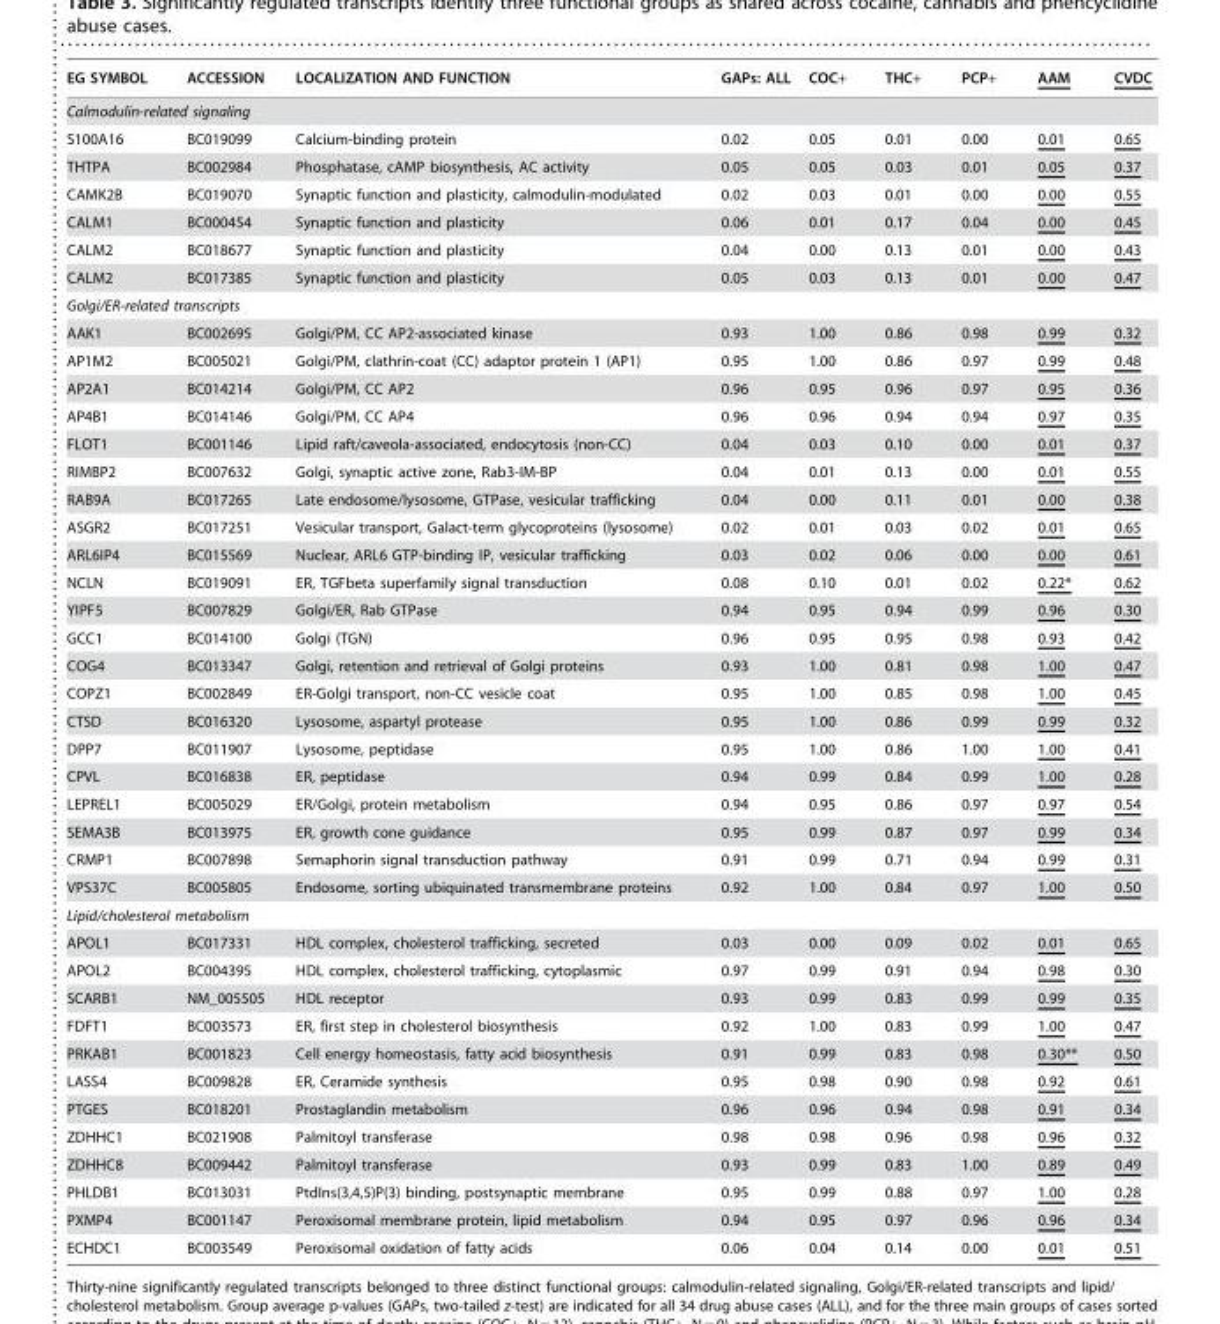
<table><thead><tr><td>EG SYMBOL</td><td>ACCESSION</td><td>LOCALIZATION AND FUNCTION</td><td>GAPs: ALL</td><td>COC+</td><td>THC+</td><td>PCP+</td><td>AAM</td><td>CVDC</td></tr></thead><tbody><tr><td colspan="9">Calmodulin-related signaling</td></tr><tr><td>S100A16</td><td>BC019099</td><td>Calcium-binding protein</td><td>0.02</td><td>0.05</td><td>0.01</td><td>0.00</td><td>0.01</td><td>0.65</td></tr><tr><td>THTPA</td><td>BC002984</td><td>Phosphatase, cAMP biosynthesis, AC activity</td><td>0.05</td><td>0.05</td><td>0.03</td><td>0.01</td><td>0.05</td><td>0.37</td></tr><tr><td>CAMK2B</td><td>BC019070</td><td>Synaptic function and plasticity, calmodulin-modulated</td><td>0.02</td><td>0.03</td><td>0.01</td><td>0.00</td><td>0.00</td><td>0.55</td></tr><tr><td>CALM1</td><td>BC000454</td><td>Synaptic function and plasticity</td><td>0.06</td><td>0.01</td><td>0.17</td><td>0.04</td><td>0.00</td><td>0.45</td></tr><tr><td>CALM2</td><td>BC018677</td><td>Synaptic function and plasticity</td><td>0.04</td><td>0.00</td><td>0.13</td><td>0.01</td><td>0.00</td><td>0.43</td></tr><tr><td>CALM2</td><td>BC017385</td><td>Synaptic function and plasticity</td><td>0.05</td><td>0.03</td><td>0.13</td><td>0.01</td><td>0.00</td><td>0.47</td></tr><tr><td colspan="9">Golgi/ER-related transcripts</td></tr><tr><td>AAK1</td><td>BC002695</td><td>Golgi/PM, CC AP2-associated kinase</td><td>0.93</td><td>1.00</td><td>0.86</td><td>0.98</td><td>0.99</td><td>0.32</td></tr><tr><td>AP1M2</td><td>BC005021</td><td>Golgi/PM, clathrin-coat (CC) adaptor protein 1 (AP1)</td><td>0.95</td><td>1.00</td><td>0.86</td><td>0.97</td><td>0.99</td><td>0.48</td></tr><tr><td>AP2A1</td><td>BC014214</td><td>Golgi/PM, CC AP2</td><td>0.96</td><td>0.95</td><td>0.96</td><td>0.97</td><td>0.95</td><td>0.36</td></tr><tr><td>AP4B1</td><td>BC014146</td><td>Golgi/PM, CC AP4</td><td>0.96</td><td>0.96</td><td>0.94</td><td>0.94</td><td>0.97</td><td>0.35</td></tr><tr><td>FLOT1</td><td>BC001146</td><td>Lipid raft/caveola-associated, endocytosis (non-CC)</td><td>0.04</td><td>0.03</td><td>0.10</td><td>0.00</td><td>0.01</td><td>0.37</td></tr><tr><td>RIMBP2</td><td>BC007632</td><td>Golgi, synaptic active zone, Rab3-IM-BP</td><td>0.04</td><td>0.01</td><td>0.13</td><td>0.00</td><td>0.01</td><td>0.55</td></tr><tr><td>RAB9A</td><td>BC017265</td><td>Late endosome/lysosome, GTPase, vesicular trafficking</td><td>0.04</td><td>0.00</td><td>0.11</td><td>0.01</td><td>0.00</td><td>0.38</td></tr><tr><td>ASGR2</td><td>BC017251</td><td>Vesicular transport, Galact-term glycoproteins (lysosome)</td><td>0.02</td><td>0.01</td><td>0.03</td><td>0.02</td><td>0.01</td><td>0.65</td></tr><tr><td>ARL6IP4</td><td>BC015569</td><td>Nuclear, ARL6 GTP-binding IP, vesicular trafficking</td><td>0.03</td><td>0.02</td><td>0.06</td><td>0.00</td><td>0.00</td><td>0.61</td></tr><tr><td>NCLN</td><td>BC019091</td><td>ER, TGFbeta superfamily signal transduction</td><td>0.08</td><td>0.10</td><td>0.01</td><td>0.02</td><td>0.22*</td><td>0.62</td></tr><tr><td>YIPF5</td><td>BC007829</td><td>Golgi/ER, Rab GTPase</td><td>0.94</td><td>0.95</td><td>0.94</td><td>0.99</td><td>0.96</td><td>0.30</td></tr><tr><td>GCC1</td><td>BC014100</td><td>Golgi (TGN)</td><td>0.96</td><td>0.95</td><td>0.95</td><td>0.98</td><td>0.93</td><td>0.42</td></tr><tr><td>COG4</td><td>BC013347</td><td>Golgi, retention and retrieval of Golgi proteins</td><td>0.93</td><td>1.00</td><td>0.81</td><td>0.98</td><td>1.00</td><td>0.47</td></tr><tr><td>COPZ1</td><td>BC002849</td><td>ER-Golgi transport, non-CC vesicle coat</td><td>0.95</td><td>1.00</td><td>0.85</td><td>0.98</td><td>1.00</td><td>0.45</td></tr><tr><td>CTSD</td><td>BC016320</td><td>Lysosome, aspartyl protease</td><td>0.95</td><td>1.00</td><td>0.86</td><td>0.99</td><td>0.99</td><td>0.32</td></tr><tr><td>DPP7</td><td>BC011907</td><td>Lysosome, peptidase</td><td>0.95</td><td>1.00</td><td>0.86</td><td>1.00</td><td>1.00</td><td>0.41</td></tr><tr><td>CPVL</td><td>BC016838</td><td>ER, peptidase</td><td>0.94</td><td>0.99</td><td>0.84</td><td>0.99</td><td>1.00</td><td>0.28</td></tr><tr><td>LEPREL1</td><td>BC005029</td><td>ER/Golgi, protein metabolism</td><td>0.94</td><td>0.95</td><td>0.86</td><td>0.97</td><td>0.97</td><td>0.54</td></tr><tr><td>SEMA3B</td><td>BC013975</td><td>ER, growth cone guidance</td><td>0.95</td><td>0.99</td><td>0.87</td><td>0.97</td><td>0.99</td><td>0.34</td></tr><tr><td>CRMP1</td><td>BC007898</td><td>Semaphorin signal transduction pathway</td><td>0.91</td><td>0.99</td><td>0.71</td><td>0.94</td><td>0.99</td><td>0.31</td></tr><tr><td>VPS37C</td><td>BC005805</td><td>Endosome, sorting ubiquinated transmembrane proteins</td><td>0.92</td><td>1.00</td><td>0.84</td><td>0.97</td><td>1.00</td><td>0.50</td></tr><tr><td colspan="9">Lipid/cholesterol metabolism</td></tr><tr><td>APOL1</td><td>BC017331</td><td>HDL complex, cholesterol trafficking, secreted</td><td>0.03</td><td>0.00</td><td>0.09</td><td>0.02</td><td>0.01</td><td>0.65</td></tr><tr><td>APOL2</td><td>BC004395</td><td>HDL complex, cholesterol trafficking, cytoplasmic</td><td>0.97</td><td>0.99</td><td>0.91</td><td>0.94</td><td>0.98</td><td>0.30</td></tr><tr><td>SCARB1</td><td>NM_005505</td><td>HDL receptor</td><td>0.93</td><td>0.99</td><td>0.83</td><td>0.99</td><td>0.99</td><td>0.35</td></tr><tr><td>FDFT1</td><td>BC003573</td><td>ER, first step in cholesterol biosynthesis</td><td>0.92</td><td>1.00</td><td>0.83</td><td>0.99</td><td>1.00</td><td>0.47</td></tr><tr><td>PRKAB1</td><td>BC001823</td><td>Cell energy homeostasis, fatty acid biosynthesis</td><td>0.91</td><td>0.99</td><td>0.83</td><td>0.98</td><td>0.30**</td><td>0.50</td></tr><tr><td>LASS4</td><td>BC009828</td><td>ER, Ceramide synthesis</td><td>0.95</td><td>0.98</td><td>0.90</td><td>0.98</td><td>0.92</td><td>0.61</td></tr><tr><td>PTGES</td><td>BC018201</td><td>Prostaglandin metabolism</td><td>0.96</td><td>0.96</td><td>0.94</td><td>0.98</td><td>0.91</td><td>0.34</td></tr><tr><td>ZDHHC1</td><td>BC021908</td><td>Palmitoyl transferase</td><td>0.98</td><td>0.98</td><td>0.96</td><td>0.98</td><td>0.96</td><td>0.32</td></tr><tr><td>ZDHHC8</td><td>BC009442</td><td>Palmitoyl transferase</td><td>0.93</td><td>0.99</td><td>0.83</td><td>1.00</td><td>0.89</td><td>0.49</td></tr><tr><td>PHLDB1</td><td>BC013031</td><td>PtdIns(3,4,5)P(3) binding, postsynaptic membrane</td><td>0.95</td><td>0.99</td><td>0.88</td><td>0.97</td><td>1.00</td><td>0.28</td></tr><tr><td>PXMP4</td><td>BC001147</td><td>Peroxisomal membrane protein, lipid metabolism</td><td>0.94</td><td>0.95</td><td>0.97</td><td>0.96</td><td>0.96</td><td>0.34</td></tr><tr><td>ECHDC1</td><td>BC003549</td><td>Peroxisomal oxidation of fatty acids</td><td>0.06</td><td>0.04</td><td>0.14</td><td>0.00</td><td>0.01</td><td>0.51</td></tr></tbody></table>